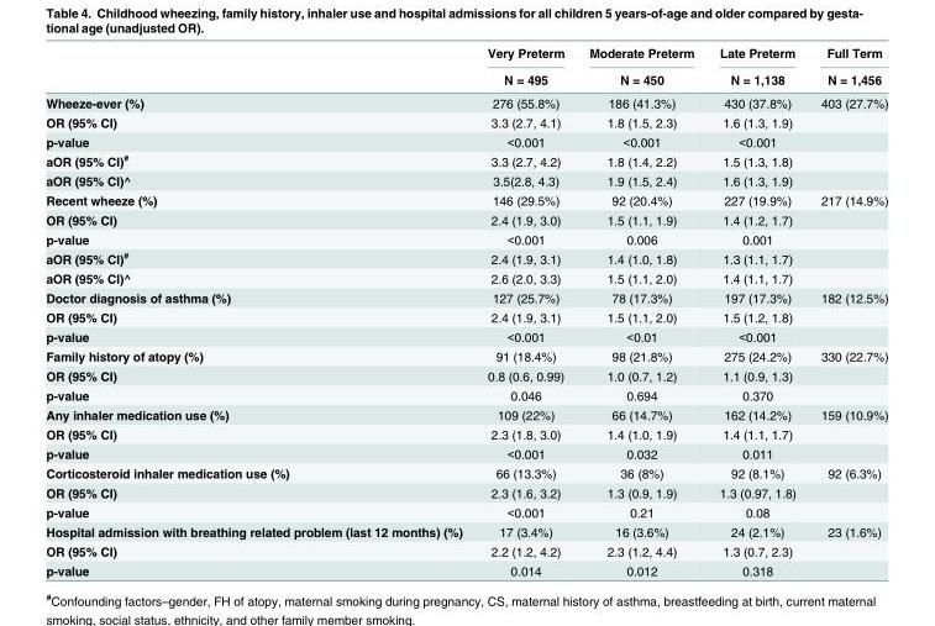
<table><thead><tr><td rowspan="2"></td><td rowspan="2">Very Preterm N = 495</td><td rowspan="2">Moderate Preterm N = 450</td><td rowspan="2">Late Preterm N = 1,138</td><td rowspan="2">Full Term N = 1,456</td></tr><tr></tr></thead><tbody><tr><td>Wheeze-ever (%)</td><td>276 (55.8%)</td><td>186 (41.3%)</td><td>430 (37.8%)</td><td>403 (27.7%)</td></tr><tr><td>OR (95% CI)</td><td>3.3 (2.7, 4.1)</td><td>1.8 (1.5, 2.3)</td><td>1.6 (1.3, 1.9)</td><td></td></tr><tr><td>p-value</td><td>&lt;0.001</td><td>&lt;0.001</td><td>&lt;0.001</td><td></td></tr><tr><td>aOR (95% CI)<sup>#</sup></td><td>3.3 (2.7, 4.2)</td><td>1.8 (1.4, 2.2)</td><td>1.5 (1.3, 1.8)</td><td></td></tr><tr><td>aOR (95% CI)^</td><td>3.5(2.8, 4.3)</td><td>1.9 (1.5, 2.4)</td><td>1.6 (1.3, 1.9)</td><td></td></tr><tr><td>Recent wheeze (%)</td><td>146 (29.5%)</td><td>92 (20.4%)</td><td>227 (19.9%)</td><td>217 (14.9%)</td></tr><tr><td>OR (95% CI)</td><td>2.4 (1.9, 3.0)</td><td>1.5 (1.1, 1.9)</td><td>1.4 (1.2, 1.7)</td><td></td></tr><tr><td>p-value</td><td>&lt;0.001</td><td>0.006</td><td>0.001</td><td></td></tr><tr><td>aOR (95% CI)<sup>#</sup></td><td>2.4 (1.9, 3.1)</td><td>1.4 (1.0, 1.8)</td><td>1.3 (1.1, 1.7)</td><td></td></tr><tr><td>aOR (95% CI)^</td><td>2.6 (2.0, 3.3)</td><td>1.5 (1.1, 2.0)</td><td>1.4 (1.1, 1.7)</td><td></td></tr><tr><td>Doctor diagnosis of asthma (%)</td><td>127 (25.7%)</td><td>78 (17.3%)</td><td>197 (17.3%)</td><td>182 (12.5%)</td></tr><tr><td>OR (95% CI)</td><td>2.4 (1.9, 3.1)</td><td>1.5 (1.1, 2.0)</td><td>1.5 (1.2, 1.8)</td><td></td></tr><tr><td>p-value</td><td>&lt;0.001</td><td>&lt;0.01</td><td>&lt;0.001</td><td></td></tr><tr><td>Family history of atopy (%)</td><td>91 (18.4%)</td><td>98 (21.8%)</td><td>275 (24.2%)</td><td>330 (22.7%)</td></tr><tr><td>OR (95% CI)</td><td>0.8 (0.6, 0.99)</td><td>1.0 (0.7, 1.2)</td><td>1.1 (0.9, 1.3)</td><td></td></tr><tr><td>p-value</td><td>0.046</td><td>0.694</td><td>0.370</td><td></td></tr><tr><td>Any inhaler medication use (%)</td><td>109 (22%)</td><td>66 (14.7%)</td><td>162 (14.2%)</td><td>159 (10.9%)</td></tr><tr><td>OR (95% CI)</td><td>2.3 (1.8, 3.0)</td><td>1.4 (1.0, 1.9)</td><td>1.4 (1.1, 1.7)</td><td></td></tr><tr><td>p-value</td><td>&lt;0.001</td><td>0.032</td><td>0.011</td><td></td></tr><tr><td>Corticosteroid inhaler medication use (%)</td><td>66 (13.3%)</td><td>36 (8%)</td><td>92 (8.1%)</td><td>92 (6.3%)</td></tr><tr><td>OR (95% CI)</td><td>2.3 (1.6, 3.2)</td><td>1.3 (0.9, 1.9)</td><td>1.3 (0.97, 1.8)</td><td></td></tr><tr><td>p-value</td><td>&lt;0.001</td><td>0.21</td><td>0.08</td><td></td></tr><tr><td>Hospital admission with breathing related problem (last 12 months) (%)</td><td>17 (3.4%)</td><td>16 (3.6%)</td><td>24 (2.1%)</td><td>23 (1.6%)</td></tr><tr><td>OR (95% CI)</td><td>2.2 (1.2, 4.2)</td><td>2.3 (1.2, 4.4)</td><td>1.3 (0.7, 2.3)</td><td></td></tr><tr><td>p-value</td><td>0.014</td><td>0.012</td><td>0.318</td><td></td></tr></tbody></table>